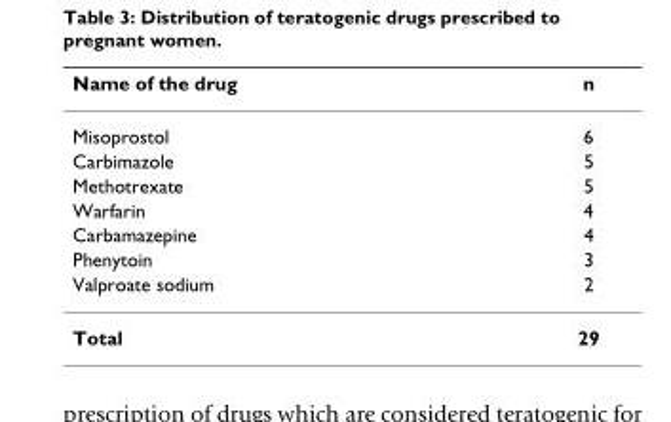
<table><thead><tr><td>Name of the drug</td><td>n</td></tr></thead><tbody><tr><td>Misoprostol</td><td>6</td></tr><tr><td>Carbimazole</td><td>5</td></tr><tr><td>Methotrexate</td><td>5</td></tr><tr><td>Warfarin</td><td>4</td></tr><tr><td>Carbamazepine</td><td>4</td></tr><tr><td>Phenytoin</td><td>3</td></tr><tr><td>Valproate sodium</td><td>2</td></tr><tr><td>Total</td><td>29</td></tr></tbody></table>